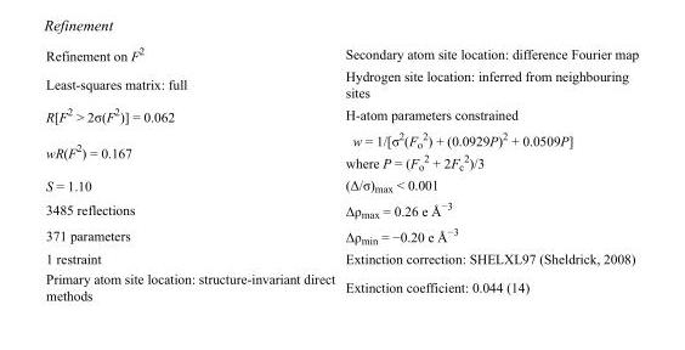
<table><tbody><tr><td>Refinement on F<sup>2</sup></td><td>Secondary atom site location: difference Fourier map</td></tr><tr><td>Least-squares matrix: full</td><td>Hydrogen site location: inferred from neighbouring sites</td></tr><tr><td>R[F<sup>2</sup> &gt; 2σ(F<sup>2</sup>)] = 0.062</td><td>H-atom parameters constrained</td></tr><tr><td>wR(F<sup>2</sup>) = 0.167</td><td>w = 1/[σ<sup>2</sup>(F<sub>o</sub> <sup>2</sup>) + (0.0929P)<sup>2</sup> + 0.0509P] where P = (F<sub>o</sub> <sup>2</sup> + 2F<sub>c</sub> <sup>2</sup>)/3</td></tr><tr><td>S = 1.10</td><td>(Δ/σ)<sub>max</sub> &lt; 0.001</td></tr><tr><td>3485 reflections</td><td>Δρ<sub>max</sub> = 0.26 e Å<sup>−3</sup></td></tr><tr><td>371 parameters</td><td>Δρ<sub>min</sub> = −0.20 e Å<sup>−3</sup></td></tr><tr><td>1 restraint</td><td>Extinction correction: SHELXL97 (Sheldrick, 2008)</td></tr><tr><td>Primary atom site location: structure-invariant direct methods</td><td>Extinction coefficient: 0.044 (14)</td></tr></tbody></table>